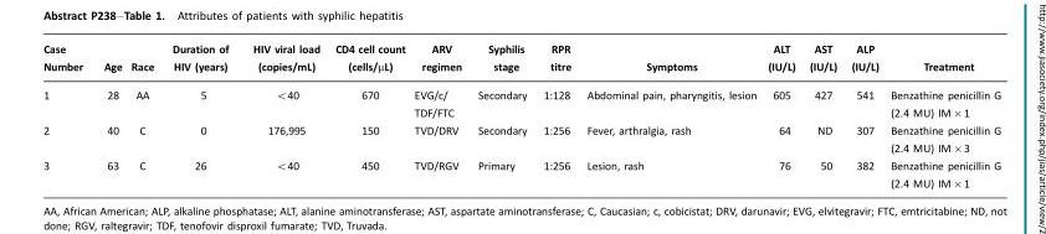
<table><thead><tr><td>Case Number</td><td>Age</td><td>Race</td><td>Duration of HIV (years)</td><td>HIV viral load (copies/mL)</td><td>CD4 cell count (cells/µL)</td><td>ARV regimen</td><td>Syphilis stage</td><td>RPR titre</td><td>Symptoms</td><td>ALT (IU/L)</td><td>AST (IU/L)</td><td>ALP (IU/L)</td><td>Treatment</td></tr></thead><tbody><tr><td>1</td><td>28</td><td>AA</td><td>5</td><td>&lt;40</td><td>670</td><td>EVG/c/ TDF/FTC</td><td>Secondary</td><td>1:128</td><td>Abdominal pain, pharyngitis, lesion</td><td>605</td><td>427</td><td>541</td><td>Benzathine penicillin G (2.4 MU) IM×1</td></tr><tr><td>2</td><td>40</td><td>C</td><td>0</td><td>176,995</td><td>150</td><td>TVD/DRV</td><td>Secondary</td><td>1:256</td><td>Fever, arthralgia, rash</td><td>64</td><td>ND</td><td>307</td><td>Benzathine penicillin G (2.4 MU) IM×3</td></tr><tr><td>3</td><td>63</td><td>C</td><td>26</td><td>&lt;40</td><td>450</td><td>TVD/RGV</td><td>Primary</td><td>1:256</td><td>Lesion, rash</td><td>76</td><td>50</td><td>382</td><td>Benzathine penicillin G (2.4 MU) IM×1</td></tr></tbody></table>